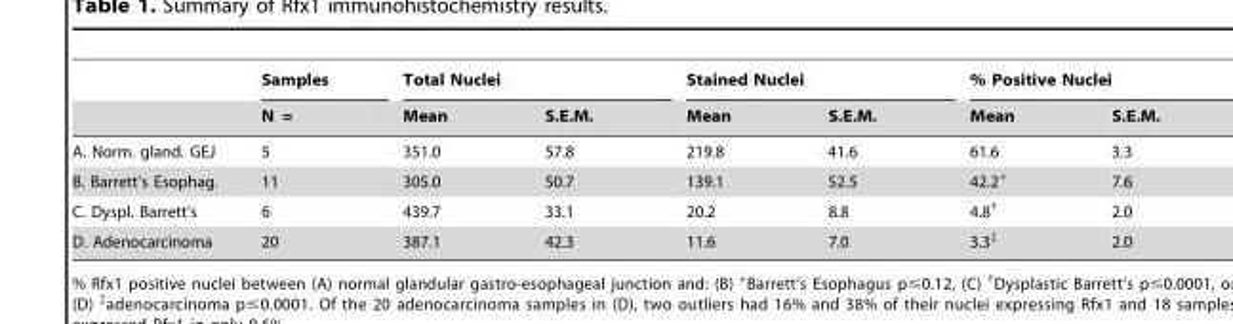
<table><thead><tr><td rowspan="2"></td><td rowspan="2">Samples N =</td><td colspan="2">Total Nuclei</td><td colspan="2">Stained Nuclei</td><td colspan="2">% Positive Nuclei</td></tr><tr><td>Mean</td><td>S.E.M.</td><td>Mean</td><td>S.E.M.</td><td>Mean</td><td>S.E.M.</td></tr></thead><tbody><tr><td>A. Norm. gland. GEJ</td><td>5</td><td>351.0</td><td>57.8</td><td>219.8</td><td>41.6</td><td>61.6</td><td>3.3</td></tr><tr><td>B. Barrett’s Esophag.</td><td>11</td><td>305.0</td><td>50.7</td><td>139.1</td><td>52.5</td><td>42.2+</td><td>7.6</td></tr><tr><td>C. Dyspl. Barrett’s</td><td>6</td><td>439.7</td><td>33.1</td><td>20.2</td><td>8.8</td><td>4.8†</td><td>2.0</td></tr><tr><td>D. Adenocarcinoma</td><td>20</td><td>387.1</td><td>42.3</td><td>11.6</td><td>7.0</td><td>3.3‡</td><td>2.0</td></tr></tbody></table>